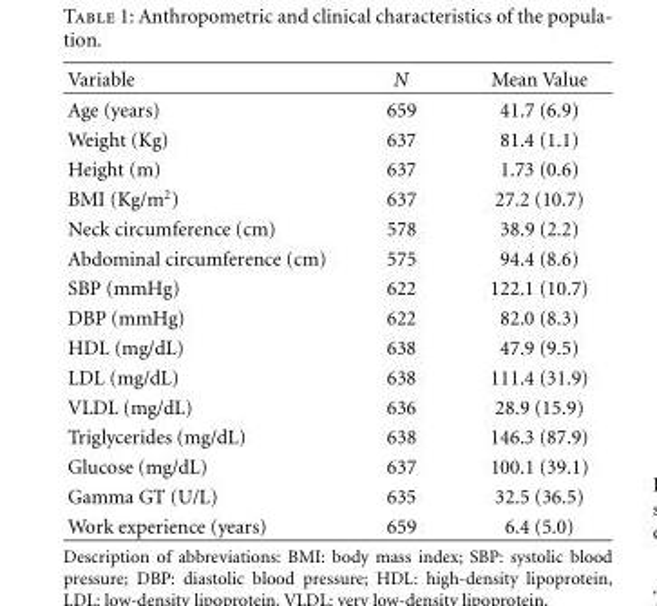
<table><thead><tr><td>Variable</td><td>N</td><td>Mean Value</td></tr></thead><tbody><tr><td>Age (years)</td><td>659</td><td>41.7 (6.9)</td></tr><tr><td>Weight (Kg)</td><td>637</td><td>81.4 (1.1)</td></tr><tr><td>Height (m)</td><td>637</td><td>1.73 (0.6)</td></tr><tr><td>BMI (Kg/m<sup>2</sup>)</td><td>637</td><td>27.2 (10.7)</td></tr><tr><td>Neck circumference (cm)</td><td>578</td><td>38.9 (2.2)</td></tr><tr><td>Abdominal circumference (cm)</td><td>575</td><td>94.4 (8.6)</td></tr><tr><td>SBP (mmHg)</td><td>622</td><td>122.1 (10.7)</td></tr><tr><td>DBP (mmHg)</td><td>622</td><td>82.0 (8.3)</td></tr><tr><td>HDL (mg/dL)</td><td>638</td><td>47.9 (9.5)</td></tr><tr><td>LDL (mg/dL)</td><td>638</td><td>111.4 (31.9)</td></tr><tr><td>VLDL (mg/dL)</td><td>636</td><td>28.9 (15.9)</td></tr><tr><td>Triglycerides (mg/dL)</td><td>638</td><td>146.3 (87.9)</td></tr><tr><td>Glucose (mg/dL)</td><td>637</td><td>100.1 (39.1)</td></tr><tr><td>Gamma GT (U/L)</td><td>635</td><td>32.5 (36.5)</td></tr><tr><td>Work experience (years)</td><td>659</td><td>6.4 (5.0)</td></tr></tbody></table>